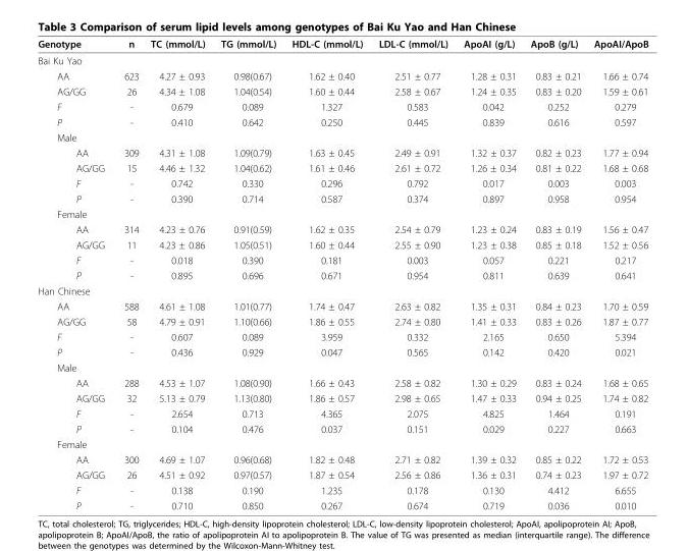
<table><thead><tr><td>Genotype</td><td>n</td><td>TC (mmol/L)</td><td>TG (mmol/L)</td><td>HDL-C (mmol/L)</td><td>LDL-C (mmol/L)</td><td>ApoAI (g/L)</td><td>ApoB (g/L)</td><td>ApoAI/ApoB</td></tr></thead><tbody><tr><td colspan="9">Bai Ku Yao</td></tr><tr><td>AA</td><td>623</td><td>4.27 ± 0.93</td><td>0.98(0.67)</td><td>1.62 ± 0.40</td><td>2.51 ± 0.77</td><td>1.28 ± 0.31</td><td>0.83 ± 0.21</td><td>1.66 ± 0.74</td></tr><tr><td>AG/GG</td><td>26</td><td>4.34 ± 1.08</td><td>1.04(0.54)</td><td>1.60 ± 0.44</td><td>2.58 ± 0.67</td><td>1.24 ± 0.35</td><td>0.83 ± 0.20</td><td>1.59 ± 0.61</td></tr><tr><td>F</td><td>-</td><td>0.679</td><td>0.089</td><td>1.327</td><td>0.583</td><td>0.042</td><td>0.252</td><td>0.279</td></tr><tr><td>P</td><td>-</td><td>0.410</td><td>0.642</td><td>0.250</td><td>0.445</td><td>0.839</td><td>0.616</td><td>0.597</td></tr><tr><td colspan="9">Male</td></tr><tr><td>AA</td><td>309</td><td>4.31 ± 1.08</td><td>1.09(0.79)</td><td>1.63 ± 0.45</td><td>2.49 ± 0.91</td><td>1.32 ± 0.37</td><td>0.82 ± 0.23</td><td>1.77 ± 0.94</td></tr><tr><td>AG/GG</td><td>15</td><td>4.46 ± 1.32</td><td>1.04(0.62)</td><td>1.61 ± 0.46</td><td>2.61 ± 0.72</td><td>1.26 ± 0.34</td><td>0.81 ± 0.22</td><td>1.68 ± 0.68</td></tr><tr><td>F</td><td>-</td><td>0.742</td><td>0.330</td><td>0.296</td><td>0.792</td><td>0.017</td><td>0.003</td><td>0.003</td></tr><tr><td>P</td><td>-</td><td>0.390</td><td>0.714</td><td>0.587</td><td>0.374</td><td>0.897</td><td>0.958</td><td>0.954</td></tr><tr><td colspan="9">Female</td></tr><tr><td>AA</td><td>314</td><td>4.23 ± 0.76</td><td>0.91(0.59)</td><td>1.62 ± 0.35</td><td>2.54 ± 0.79</td><td>1.23 ± 0.24</td><td>0.83 ± 0.19</td><td>1.56 ± 0.47</td></tr><tr><td>AG/GG</td><td>11</td><td>4.23 ± 0.86</td><td>1.05(0.51)</td><td>1.60 ± 0.44</td><td>2.55 ± 0.90</td><td>1.23 ± 0.38</td><td>0.85 ± 0.18</td><td>1.52 ± 0.56</td></tr><tr><td>F</td><td>-</td><td>0.018</td><td>0.390</td><td>0.181</td><td>0.003</td><td>0.057</td><td>0.221</td><td>0.217</td></tr><tr><td>P</td><td>-</td><td>0.895</td><td>0.696</td><td>0.671</td><td>0.954</td><td>0.811</td><td>0.639</td><td>0.641</td></tr><tr><td colspan="9">Han Chinese</td></tr><tr><td>AA</td><td>588</td><td>4.61 ± 1.08</td><td>1.01(0.77)</td><td>1.74 ± 0.47</td><td>2.63 ± 0.82</td><td>1.35 ± 0.31</td><td>0.84 ± 0.23</td><td>1.70 ± 0.59</td></tr><tr><td>AG/GG</td><td>58</td><td>4.79 ± 0.91</td><td>1.10(0.66)</td><td>1.86 ± 0.55</td><td>2.74 ± 0.80</td><td>1.41 ± 0.33</td><td>0.83 ± 0.26</td><td>1.87 ± 0.77</td></tr><tr><td>F</td><td>-</td><td>0.607</td><td>0.089</td><td>3.959</td><td>0.332</td><td>2.165</td><td>0.650</td><td>5.394</td></tr><tr><td>P</td><td>-</td><td>0.436</td><td>0.929</td><td>0.047</td><td>0.565</td><td>0.142</td><td>0.420</td><td>0.021</td></tr><tr><td colspan="9">Male</td></tr><tr><td>AA</td><td>288</td><td>4.53 ± 1.07</td><td>1.08(0.90)</td><td>1.66 ± 0.43</td><td>2.58 ± 0.82</td><td>1.30 ± 0.29</td><td>0.83 ± 0.24</td><td>1.68 ± 0.65</td></tr><tr><td>AG/GG</td><td>32</td><td>5.13 ± 0.79</td><td>1.13(0.80)</td><td>1.86 ± 0.57</td><td>2.98 ± 0.65</td><td>1.47 ± 0.33</td><td>0.94 ± 0.25</td><td>1.74 ± 0.82</td></tr><tr><td>F</td><td>-</td><td>2.654</td><td>0.713</td><td>4.365</td><td>2.075</td><td>4.825</td><td>1.464</td><td>0.191</td></tr><tr><td>P</td><td>-</td><td>0.104</td><td>0.476</td><td>0.037</td><td>0.151</td><td>0.029</td><td>0.227</td><td>0.663</td></tr><tr><td colspan="9">Female</td></tr><tr><td>AA</td><td>300</td><td>4.69 ± 1.07</td><td>0.96(0.68)</td><td>1.82 ± 0.48</td><td>2.71 ± 0.82</td><td>1.39 ± 0.32</td><td>0.85 ± 0.22</td><td>1.72 ± 0.53</td></tr><tr><td>AG/GG</td><td>26</td><td>4.51 ± 0.92</td><td>0.97(0.57)</td><td>1.87 ± 0.54</td><td>2.56 ± 0.86</td><td>1.36 ± 0.31</td><td>0.74 ± 0.23</td><td>1.97 ± 0.72</td></tr><tr><td>F</td><td>-</td><td>0.138</td><td>0.190</td><td>1.235</td><td>0.178</td><td>0.130</td><td>4.412</td><td>6.655</td></tr><tr><td>P</td><td>-</td><td>0.710</td><td>0.850</td><td>0.267</td><td>0.674</td><td>0.719</td><td>0.036</td><td>0.010</td></tr></tbody></table>